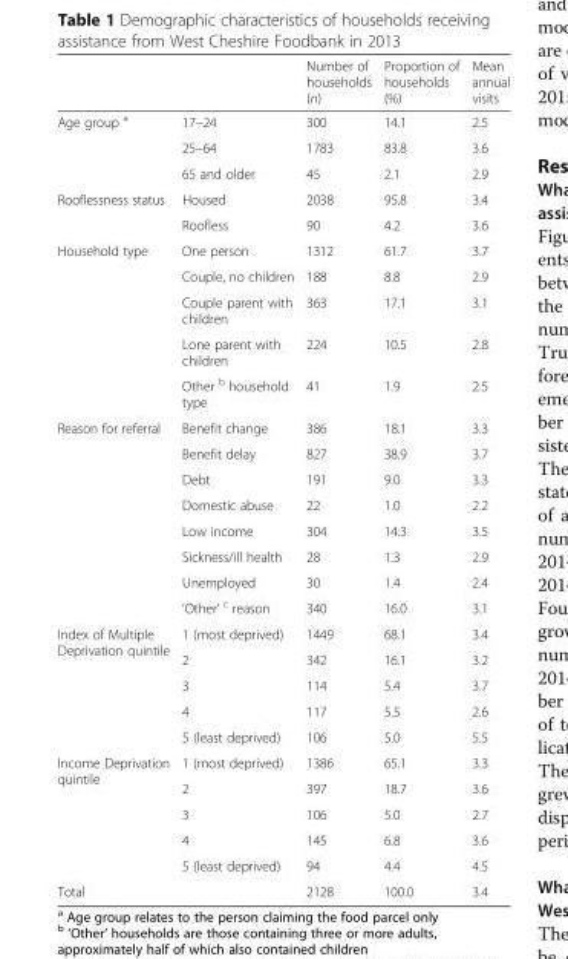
<table><thead><tr><td></td><td></td><td>Number of households (n)</td><td>Proportion of households (%)</td><td>Mean annual visits</td></tr></thead><tbody><tr><td rowspan="3">Age group <sup>a</sup></td><td>17–24</td><td>300</td><td>14.1</td><td>2.5</td></tr><tr><td>25–64</td><td>1783</td><td>83.8</td><td>3.6</td></tr><tr><td>65 and older</td><td>45</td><td>2.1</td><td>2.9</td></tr><tr><td rowspan="2">Rooflessness status</td><td>Housed</td><td>2038</td><td>95.8</td><td>3.4</td></tr><tr><td>Roofless</td><td>90</td><td>4.2</td><td>3.6</td></tr><tr><td rowspan="5">Household type</td><td>One person</td><td>1312</td><td>61.7</td><td>3.7</td></tr><tr><td>Couple, no children</td><td>188</td><td>8.8</td><td>2.9</td></tr><tr><td>Couple parent with children</td><td>363</td><td>17.1</td><td>3.1</td></tr><tr><td>Lone parent with children</td><td>224</td><td>10.5</td><td>2.8</td></tr><tr><td>Other <sup>b</sup> household type</td><td>41</td><td>1.9</td><td>2.5</td></tr><tr><td rowspan="8">Reason for referral</td><td>Benefit change</td><td>386</td><td>18.1</td><td>3.3</td></tr><tr><td>Benefit delay</td><td>827</td><td>38.9</td><td>3.7</td></tr><tr><td>Debt</td><td>191</td><td>9.0</td><td>3.3</td></tr><tr><td>Domestic abuse</td><td>22</td><td>1.0</td><td>2.2</td></tr><tr><td>Low income</td><td>304</td><td>14.3</td><td>3.5</td></tr><tr><td>Sickness/ill health</td><td>28</td><td>1.3</td><td>2.9</td></tr><tr><td>Unemployed</td><td>30</td><td>1.4</td><td>2.4</td></tr><tr><td>‘Other’ <sup>c</sup> reason</td><td>340</td><td>16.0</td><td>3.1</td></tr><tr><td rowspan="5">Index of Multiple Deprivation quintile</td><td>1 (most deprived)</td><td>1449</td><td>68.1</td><td>3.4</td></tr><tr><td>2</td><td>342</td><td>16.1</td><td>3.2</td></tr><tr><td>3</td><td>114</td><td>5.4</td><td>3.7</td></tr><tr><td>4</td><td>117</td><td>5.5</td><td>2.6</td></tr><tr><td>5 (least deprived)</td><td>106</td><td>5.0</td><td>5.5</td></tr><tr><td rowspan="5">Income Deprivation quintile</td><td>1 (most deprived)</td><td>1386</td><td>65.1</td><td>3.3</td></tr><tr><td>2</td><td>397</td><td>18.7</td><td>3.6</td></tr><tr><td>3</td><td>106</td><td>5.0</td><td>2.7</td></tr><tr><td>4</td><td>145</td><td>6.8</td><td>3.6</td></tr><tr><td>5 (least deprived)</td><td>94</td><td>4.4</td><td>4.5</td></tr><tr><td colspan="2">Total</td><td>2128</td><td>100.0</td><td>3.4</td></tr></tbody></table>